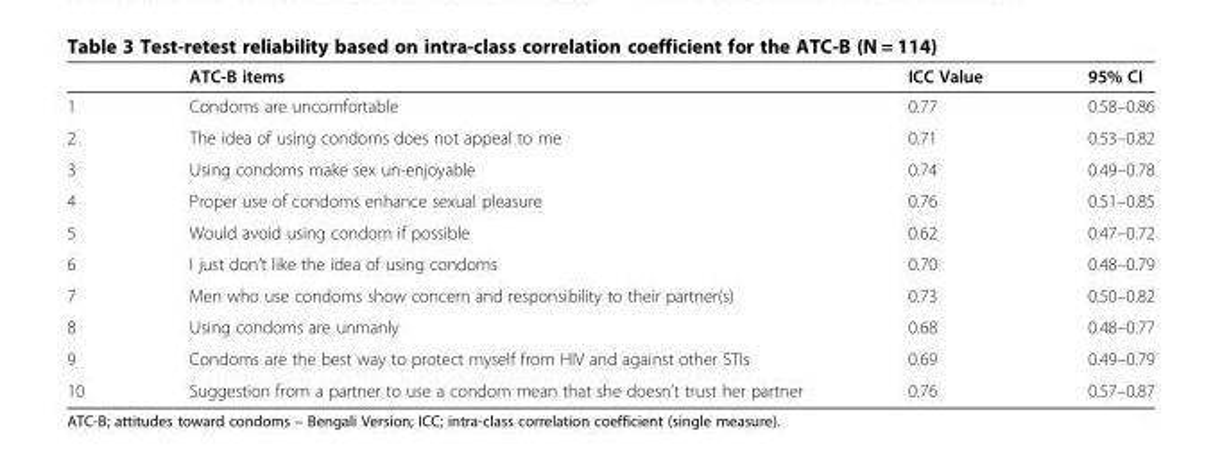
<table><thead><tr><td></td><td>ATC-B items</td><td>ICC Value</td><td>95% CI</td></tr></thead><tbody><tr><td>1</td><td>Condoms are uncomfortable</td><td>0.77</td><td>0.58–0.86</td></tr><tr><td>2</td><td>The idea of using condoms does not appeal to me</td><td>0.71</td><td>0.53–0.82</td></tr><tr><td>3</td><td>Using condoms make sex un-enjoyable</td><td>0.74</td><td>0.49–0.78</td></tr><tr><td>4</td><td>Proper use of condoms enhance sexual pleasure</td><td>0.76</td><td>0.51–0.85</td></tr><tr><td>5</td><td>Would avoid using condom if possible</td><td>0.62</td><td>0.47–0.72</td></tr><tr><td>6</td><td>I just don’t like the idea of using condoms</td><td>0.70</td><td>0.48–0.79</td></tr><tr><td>7</td><td>Men who use condoms show concern and responsibility to their partner(s)</td><td>0.73</td><td>0.50–0.82</td></tr><tr><td>8</td><td>Using condoms are unmanly</td><td>0.68</td><td>0.48–0.77</td></tr><tr><td>9</td><td>Condoms are the best way to protect myself from HIV and against other STIs</td><td>0.69</td><td>0.49–0.79</td></tr><tr><td>10</td><td>Suggestion from a partner to use a condom mean that she doesn’t trust her partner</td><td>0.76</td><td>0.57–0.87</td></tr></tbody></table>